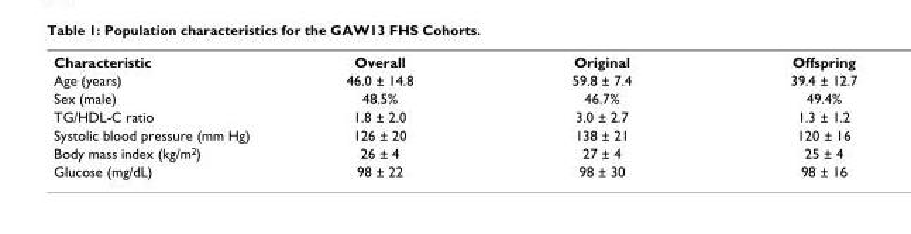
<table><tbody><tr><td>Characteristic</td><td>Overall</td><td>Original</td><td>Offspring</td></tr><tr><td>Age (years)</td><td>46.0 ± 14.8</td><td>59.8 ± 7.4</td><td>39.4 ± 12.7</td></tr><tr><td>Sex (male)</td><td>48.5%</td><td>46.7%</td><td>49.4%</td></tr><tr><td>TG/HDL-C ratio</td><td>1.8 ± 2.0</td><td>3.0 ± 2.7</td><td>1.3 ± 1.2</td></tr><tr><td>Systolic blood pressure (mm Hg)</td><td>126 ± 20</td><td>138 ± 21</td><td>120 ± 16</td></tr><tr><td>Body mass index (kg/m2)</td><td>26 ± 4</td><td>27 ± 4</td><td>25 ± 4</td></tr><tr><td>Glucose (mg/dL)</td><td>98 ± 22</td><td>98 ± 30</td><td>98 ± 16</td></tr></tbody></table>